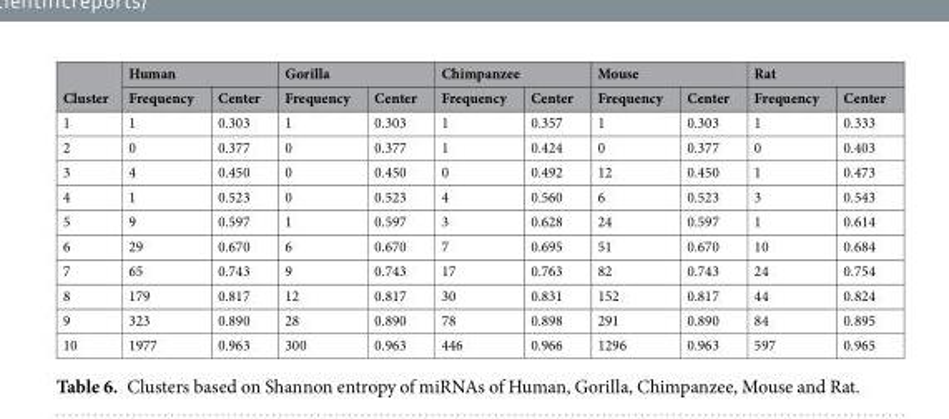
<table><thead><tr><td rowspan="2">Cluster</td><td colspan="2">Human</td><td colspan="2">Gorilla</td><td colspan="2">Chimpanzee</td><td colspan="2">Mouse</td><td colspan="2">Rat</td></tr><tr><td>Frequency</td><td>Center</td><td>Frequency</td><td>Center</td><td>Frequency</td><td>Center</td><td>Frequency</td><td>Center</td><td>Frequency</td><td>Center</td></tr></thead><tbody><tr><td>1</td><td>1</td><td>0.303</td><td>1</td><td>0.303</td><td>1</td><td>0.357</td><td>1</td><td>0.303</td><td>1</td><td>0.333</td></tr><tr><td>2</td><td>0</td><td>0.377</td><td>0</td><td>0.377</td><td>1</td><td>0.424</td><td>0</td><td>0.377</td><td>0</td><td>0.403</td></tr><tr><td>3</td><td>4</td><td>0.450</td><td>0</td><td>0.450</td><td>0</td><td>0.492</td><td>12</td><td>0.450</td><td>1</td><td>0.473</td></tr><tr><td>4</td><td>1</td><td>0.523</td><td>0</td><td>0.523</td><td>4</td><td>0.560</td><td>6</td><td>0.523</td><td>3</td><td>0.543</td></tr><tr><td>5</td><td>9</td><td>0.597</td><td>1</td><td>0.597</td><td>3</td><td>0.628</td><td>24</td><td>0.597</td><td>1</td><td>0.614</td></tr><tr><td>6</td><td>29</td><td>0.670</td><td>6</td><td>0.670</td><td>7</td><td>0.695</td><td>51</td><td>0.670</td><td>10</td><td>0.684</td></tr><tr><td>7</td><td>65</td><td>0.743</td><td>9</td><td>0.743</td><td>17</td><td>0.763</td><td>82</td><td>0.743</td><td>24</td><td>0.754</td></tr><tr><td>8</td><td>179</td><td>0.817</td><td>12</td><td>0.817</td><td>30</td><td>0.831</td><td>152</td><td>0.817</td><td>44</td><td>0.824</td></tr><tr><td>9</td><td>323</td><td>0.890</td><td>28</td><td>0.890</td><td>78</td><td>0.898</td><td>291</td><td>0.890</td><td>84</td><td>0.895</td></tr><tr><td>10</td><td>1977</td><td>0.963</td><td>300</td><td>0.963</td><td>446</td><td>0.966</td><td>1296</td><td>0.963</td><td>597</td><td>0.965</td></tr></tbody></table>